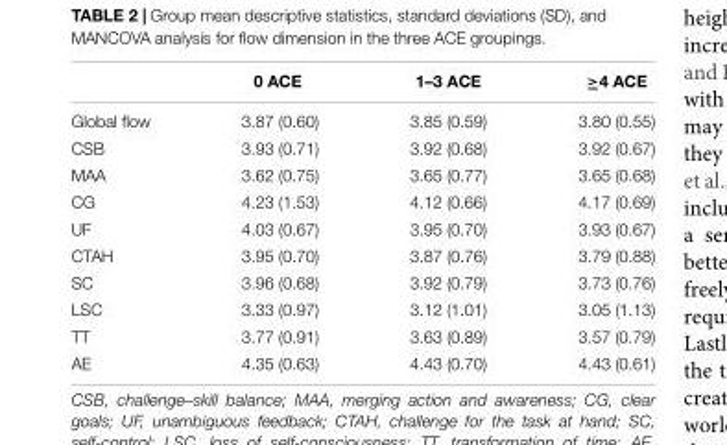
<table><thead><tr><td></td><td>0 ACE</td><td>1–3 ACE</td><td>≥4 ACE</td></tr></thead><tbody><tr><td>Global flow</td><td>3.87 (0.60)</td><td>3.85 (0.59)</td><td>3.80 (0.55)</td></tr><tr><td>CSB</td><td>3.93 (0.71)</td><td>3.92 (0.68)</td><td>3.92 (0.67)</td></tr><tr><td>MAA</td><td>3.62 (0.75)</td><td>3.65 (0.77)</td><td>3.65 (0.68)</td></tr><tr><td>CG</td><td>4.23 (1.53)</td><td>4.12 (0.66)</td><td>4.17 (0.69)</td></tr><tr><td>UF</td><td>4.03 (0.67)</td><td>3.95 (0.70)</td><td>3.93 (0.67)</td></tr><tr><td>CTAH</td><td>3.95 (0.70)</td><td>3.87 (0.76)</td><td>3.79 (0.88)</td></tr><tr><td>SC</td><td>3.96 (0.68)</td><td>3.92 (0.79)</td><td>3.73 (0.76)</td></tr><tr><td>LSC</td><td>3.33 (0.97)</td><td>3.12 (1.01)</td><td>3.05 (1.13)</td></tr><tr><td>TT</td><td>3.77 (0.91)</td><td>3.63 (0.89)</td><td>3.57 (0.79)</td></tr><tr><td>AE</td><td>4.35 (0.63)</td><td>4.43 (0.70)</td><td>4.43 (0.61)</td></tr></tbody></table>